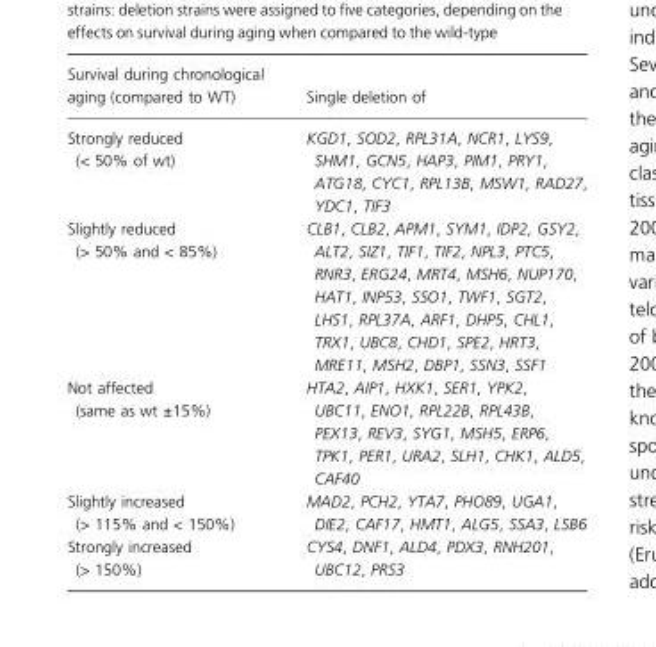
<table><thead><tr><td>Survival during chronological aging (compared to WT)</td><td>Single deletion of</td></tr></thead><tbody><tr><td>Strongly reduced (&lt; 50% of wt)</td><td>KGD1, SOD2, RPL31A, NCR1, LYS9, SHM1, GCN5, HAP3, PIM1, PRY1, ATG18, CYC1, RPL13B, MSW1, RAD27, YDC1, TIF3</td></tr><tr><td>Slightly reduced (&gt; 50% and &lt; 85%)</td><td>CLB1, CLB2, APM1, SYM1, IDP2, GSY2, ALT2, SIZ1, TIF1, TIF2, NPL3, PTC5, RNR3, ERG24, MRT4, MSH6, NUP170, HAT1, INP53, SSO1, TWF1, SGT2, LHS1, RPL37A, ARF1, DHP5, CHL1, TRX1, UBC8, CHD1, SPE2, HRT3, MRE11, MSH2, DBP1, SSN3, SSF1</td></tr><tr><td>Not affected (same as wt ±15%)</td><td>HTA2, AIP1, HXK1, SER1, YPK2, UBC11, ENO1, RPL22B, RPL43B, PEX13, REV3, SYG1, MSH5, ERP6, TPK1, PER1, URA2, SLH1, CHK1, ALD5, CAF40</td></tr><tr><td>Slightly increased (&gt; 115% and &lt; 150%)</td><td>MAD2, PCH2, YTA7, PHO89, UGA1, DIE2, CAF17, HMT1, ALG5, SSA3, LSB6</td></tr><tr><td>Strongly increased (&gt; 150%)</td><td>CYS4, DNF1, ALD4, PDX3, RNH201, UBC12, PRS3</td></tr></tbody></table>